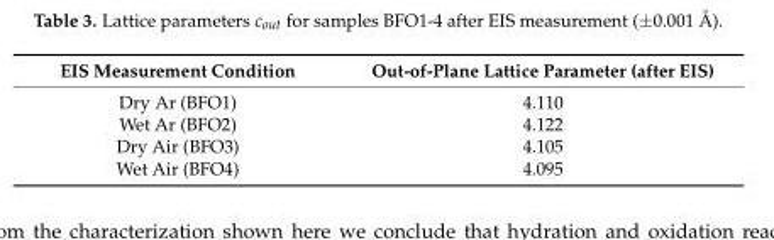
<table><thead><tr><td>EIS Measurement Condition</td><td>Out-of-Plane Lattice Parameter (after EIS)</td></tr></thead><tbody><tr><td>Dry Ar (BFO1)</td><td>4.110</td></tr><tr><td>Wet Ar (BFO2)</td><td>4.122</td></tr><tr><td>Dry Air (BFO3)</td><td>4.105</td></tr><tr><td>Wet Air (BFO4)</td><td>4.095</td></tr></tbody></table>